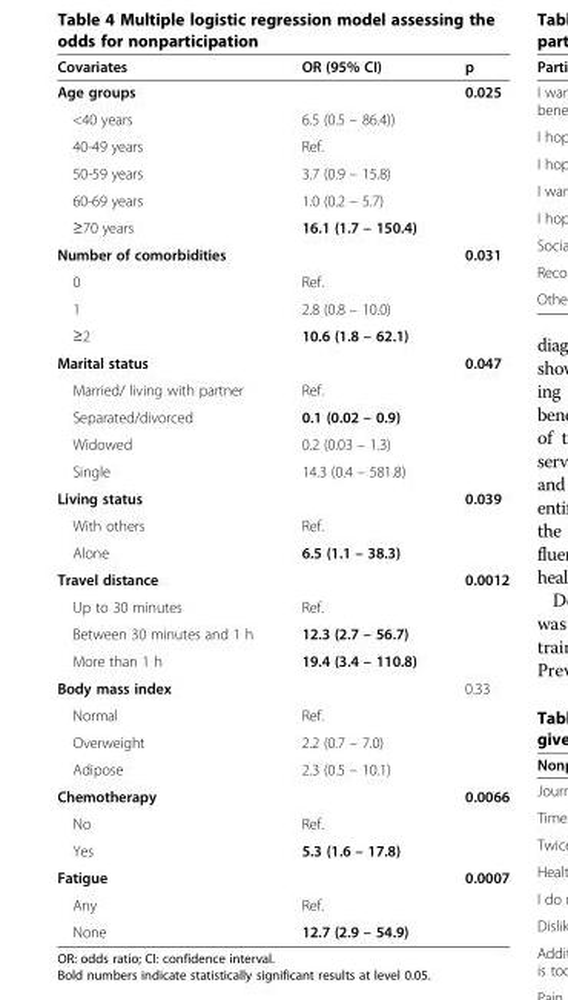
<table><thead><tr><td>Covariates</td><td>OR (95% CI)</td><td>p</td></tr></thead><tbody><tr><td>Age groups</td><td></td><td>0.025</td></tr><tr><td>&lt;40 years</td><td>6.5 (0.5 – 86.4))</td><td></td></tr><tr><td>40-49 years</td><td>Ref.</td><td></td></tr><tr><td>50-59 years</td><td>3.7 (0.9 – 15.8)</td><td></td></tr><tr><td>60-69 years</td><td>1.0 (0.2 – 5.7)</td><td></td></tr><tr><td>≥70 years</td><td>16.1 (1.7 – 150.4)</td><td></td></tr><tr><td>Number of comorbidities</td><td></td><td>0.031</td></tr><tr><td>0</td><td>Ref.</td><td></td></tr><tr><td>1</td><td>2.8 (0.8 – 10.0)</td><td></td></tr><tr><td>≥2</td><td>10.6 (1.8 – 62.1)</td><td></td></tr><tr><td>Marital status</td><td></td><td>0.047</td></tr><tr><td>Married/ living with partner</td><td>Ref.</td><td></td></tr><tr><td>Separated/divorced</td><td>0.1 (0.02 – 0.9)</td><td></td></tr><tr><td>Widowed</td><td>0.2 (0.03 – 1.3)</td><td></td></tr><tr><td>Single</td><td>14.3 (0.4 – 581.8)</td><td></td></tr><tr><td>Living status</td><td></td><td>0.039</td></tr><tr><td>With others</td><td>Ref.</td><td></td></tr><tr><td>Alone</td><td>6.5 (1.1 – 38.3)</td><td></td></tr><tr><td>Travel distance</td><td></td><td>0.0012</td></tr><tr><td>Up to 30 minutes</td><td>Ref.</td><td></td></tr><tr><td>Between 30 minutes and 1 h</td><td>12.3 (2.7 – 56.7)</td><td></td></tr><tr><td>More than 1 h</td><td>19.4 (3.4 – 110.8)</td><td></td></tr><tr><td>Body mass index</td><td></td><td>0.33</td></tr><tr><td>Normal</td><td>Ref.</td><td></td></tr><tr><td>Overweight</td><td>2.2 (0.7 – 7.0)</td><td></td></tr><tr><td>Adipose</td><td>2.3 (0.5 – 10.1)</td><td></td></tr><tr><td>Chemotherapy</td><td></td><td>0.0066</td></tr><tr><td>No</td><td>Ref.</td><td></td></tr><tr><td>Yes</td><td>5.3 (1.6 – 17.8)</td><td></td></tr><tr><td>Fatigue</td><td></td><td>0.0007</td></tr><tr><td>Any</td><td>Ref.</td><td></td></tr><tr><td>None</td><td>12.7 (2.9 – 54.9)</td><td></td></tr></tbody></table>